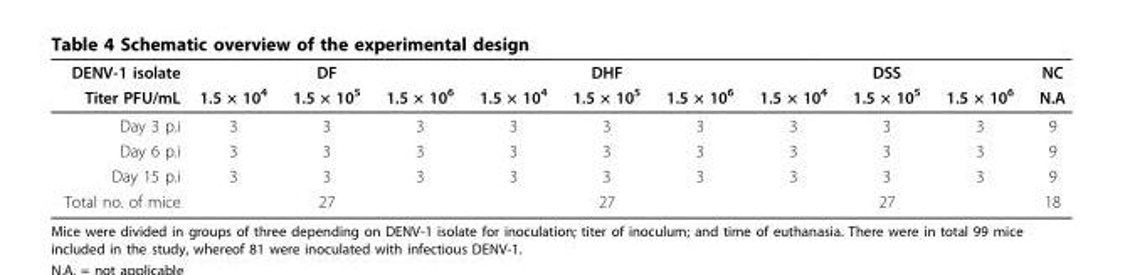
<table><thead><tr><td rowspan="2">DENV-1 isolate Titer PFU/mL</td><td colspan="3">DF</td><td colspan="3">DHF</td><td colspan="3">DSS</td><td rowspan="2">NC N.A</td></tr><tr><td>1.5 × 10<sup>4</sup></td><td>1.5 × 10<sup>5</sup></td><td>1.5 × 10<sup>6</sup></td><td>1.5 × 10<sup>4</sup></td><td>1.5 × 10<sup>5</sup></td><td>1.5 × 10<sup>6</sup></td><td>1.5 × 10<sup>4</sup></td><td>1.5 × 10<sup>5</sup></td><td>1.5 × 10<sup>6</sup></td></tr></thead><tbody><tr><td>Day 3 p.i</td><td>3</td><td>3</td><td>3</td><td>3</td><td>3</td><td>3</td><td>3</td><td>3</td><td>3</td><td>9</td></tr><tr><td>Day 6 p.i</td><td>3</td><td>3</td><td>3</td><td>3</td><td>3</td><td>3</td><td>3</td><td>3</td><td>3</td><td>9</td></tr><tr><td>Day 15 p.i</td><td>3</td><td>3</td><td>3</td><td>3</td><td>3</td><td>3</td><td>3</td><td>3</td><td>3</td><td>9</td></tr><tr><td>Total no. of mice</td><td colspan="3">27</td><td colspan="3">27</td><td colspan="3">27</td><td>18</td></tr></tbody></table>